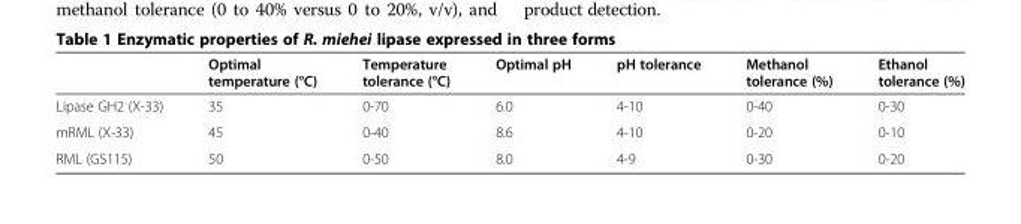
<table><thead><tr><td></td><td>Optimal temperature (°C)</td><td>Temperature tolerance (°C)</td><td>Optimal pH</td><td>pH tolerance</td><td>Methanol tolerance (%)</td><td>Ethanol tolerance (%)</td></tr></thead><tbody><tr><td>Lipase GH2 (X-33)</td><td>35</td><td>0-70</td><td>6.0</td><td>4-10</td><td>0-40</td><td>0-30</td></tr><tr><td>mRML (X-33)</td><td>45</td><td>0-40</td><td>8.6</td><td>4-10</td><td>0-20</td><td>0-10</td></tr><tr><td>RML (GS115)</td><td>50</td><td>0-50</td><td>8.0</td><td>4-9</td><td>0-30</td><td>0-20</td></tr></tbody></table>